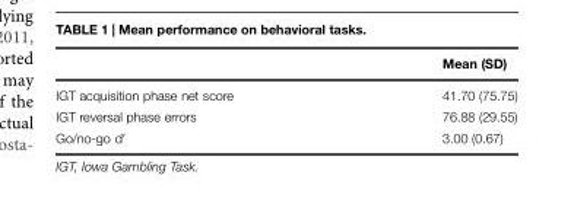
<table><thead><tr><td></td><td>Mean (SD)</td></tr></thead><tbody><tr><td>IGT acquisition phase net score</td><td>41.70 (75.75)</td></tr><tr><td>IGT reversal phase errors</td><td>76.88 (29.55)</td></tr><tr><td>Go/no-go d′</td><td>3.00 (0.67)</td></tr></tbody></table>